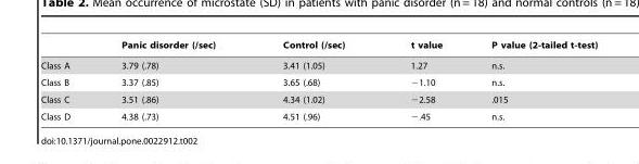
<table><thead><tr><td></td><td>Panic disorder (/sec)</td><td>Control (/sec)</td><td>t value</td><td>P value (2-tailed t-test)</td></tr></thead><tbody><tr><td>Class A</td><td>3.79 (.78)</td><td>3.41 (1.05)</td><td>1.27</td><td>n.s.</td></tr><tr><td>Class B</td><td>3.37 (.85)</td><td>3.65 (.68)</td><td>−1.10</td><td>n.s.</td></tr><tr><td>Class C</td><td>3.51 (.86)</td><td>4.34 (1.02)</td><td>−2.58</td><td>.015</td></tr><tr><td>Class D</td><td>4.38 (.73)</td><td>4.51 (.96)</td><td>−.45</td><td>n.s.</td></tr></tbody></table>